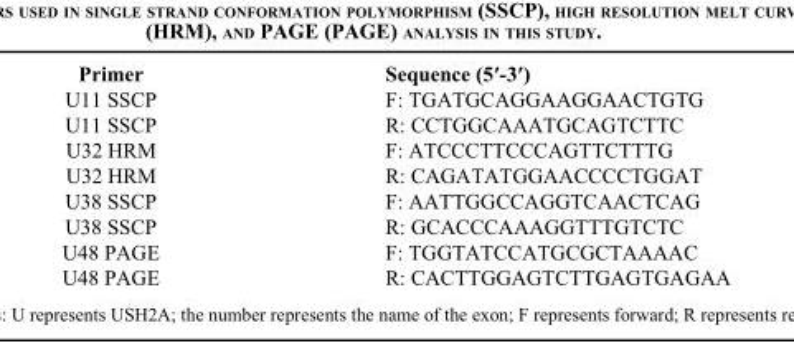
<table><thead><tr><td>Primer</td><td>Sequence (5′-3′)</td></tr></thead><tbody><tr><td>U11 SSCP</td><td>F: TGATGCAGGAAGGAACTGTG</td></tr><tr><td>U11 SSCP</td><td>R: CCTGGCAAATGCAGTCTTC</td></tr><tr><td>U32 HRM</td><td>F: ATCCCTTCCCAGTTCTTTG</td></tr><tr><td>U32 HRM</td><td>R: CAGATATGGAACCCCTGGAT</td></tr><tr><td>U38 SSCP</td><td>F: AATTGGCCAGGTCAACTCAG</td></tr><tr><td>U38 SSCP</td><td>R: GCACCCAAAGGTTTGTCTC</td></tr><tr><td>U48 PAGE</td><td>F: TGGTATCCATGCGCTAAAAC</td></tr><tr><td>U48 PAGE</td><td>R: CACTTGGAGTCTTGAGTGAGAA</td></tr></tbody></table>